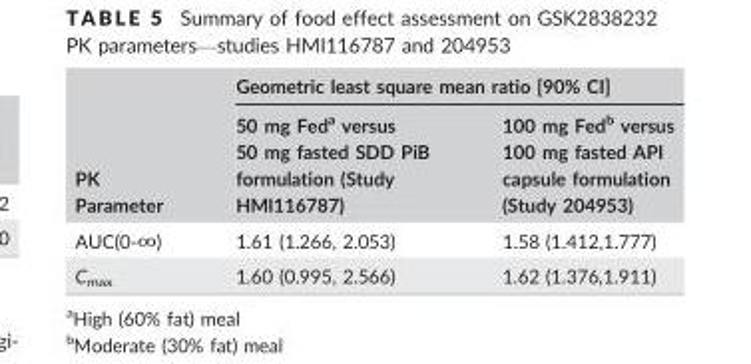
<table><thead><tr><td rowspan="2">PK Parameter</td><td colspan="2">Geometric least square mean ratio [90% CI]</td></tr><tr><td>50 mg Fed<sup>a</sup> versus 50 mg fasted SDD PiB formulation (Study HMI116787)</td><td>100 mg Fed<sup>b</sup> versus 100 mg fasted API capsule formulation (Study 204953)</td></tr></thead><tbody><tr><td>AUC(0-∞)</td><td>1.61 (1.266, 2.053)</td><td>1.58 (1.412,1.777)</td></tr><tr><td>C<sub>max</sub></td><td>1.60 (0.995, 2.566)</td><td>1.62 (1.376,1.911)</td></tr></tbody></table>